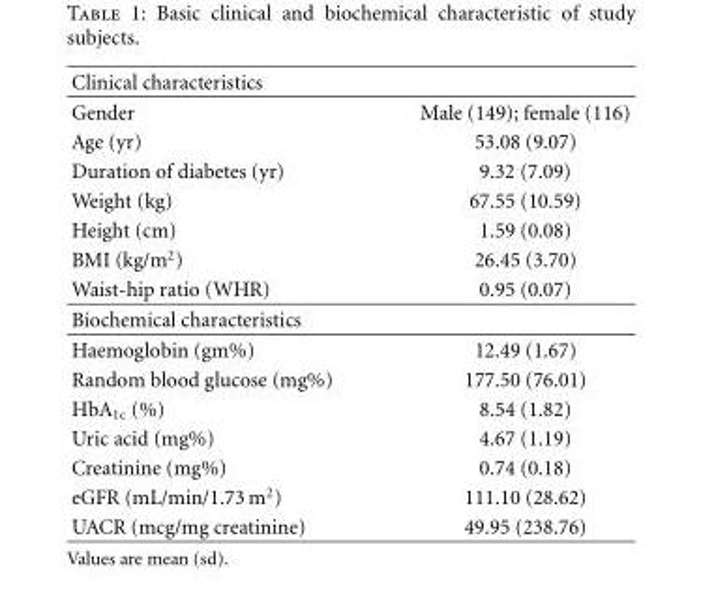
<table><thead><tr><td>Clinical characteristics</td><td></td></tr></thead><tbody><tr><td>Gender</td><td>Male (149); female (116)</td></tr><tr><td>Age (yr)</td><td>53.08 (9.07)</td></tr><tr><td>Duration of diabetes (yr)</td><td>9.32 (7.09)</td></tr><tr><td>Weight (kg)</td><td>67.55 (10.59)</td></tr><tr><td>Height (cm)</td><td>1.59 (0.08)</td></tr><tr><td>BMI (kg/m<sup>2</sup>)</td><td>26.45 (3.70)</td></tr><tr><td>Waist-hip ratio (WHR)</td><td>0.95 (0.07)</td></tr><tr><td colspan="2">Biochemical characteristics</td></tr><tr><td>Haemoglobin (gm%)</td><td>12.49 (1.67)</td></tr><tr><td>Random blood glucose (mg%)</td><td>177.50 (76.01)</td></tr><tr><td>HbA<sub>1c</sub> (%)</td><td>8.54 (1.82)</td></tr><tr><td>Uric acid (mg%)</td><td>4.67 (1.19)</td></tr><tr><td>Creatinine (mg%)</td><td>0.74 (0.18)</td></tr><tr><td>eGFR (mL/min/1.73 m<sup>2</sup>)</td><td>111.10 (28.62)</td></tr><tr><td>UACR (mcg/mg creatinine)</td><td>49.95 (238.76)</td></tr></tbody></table>